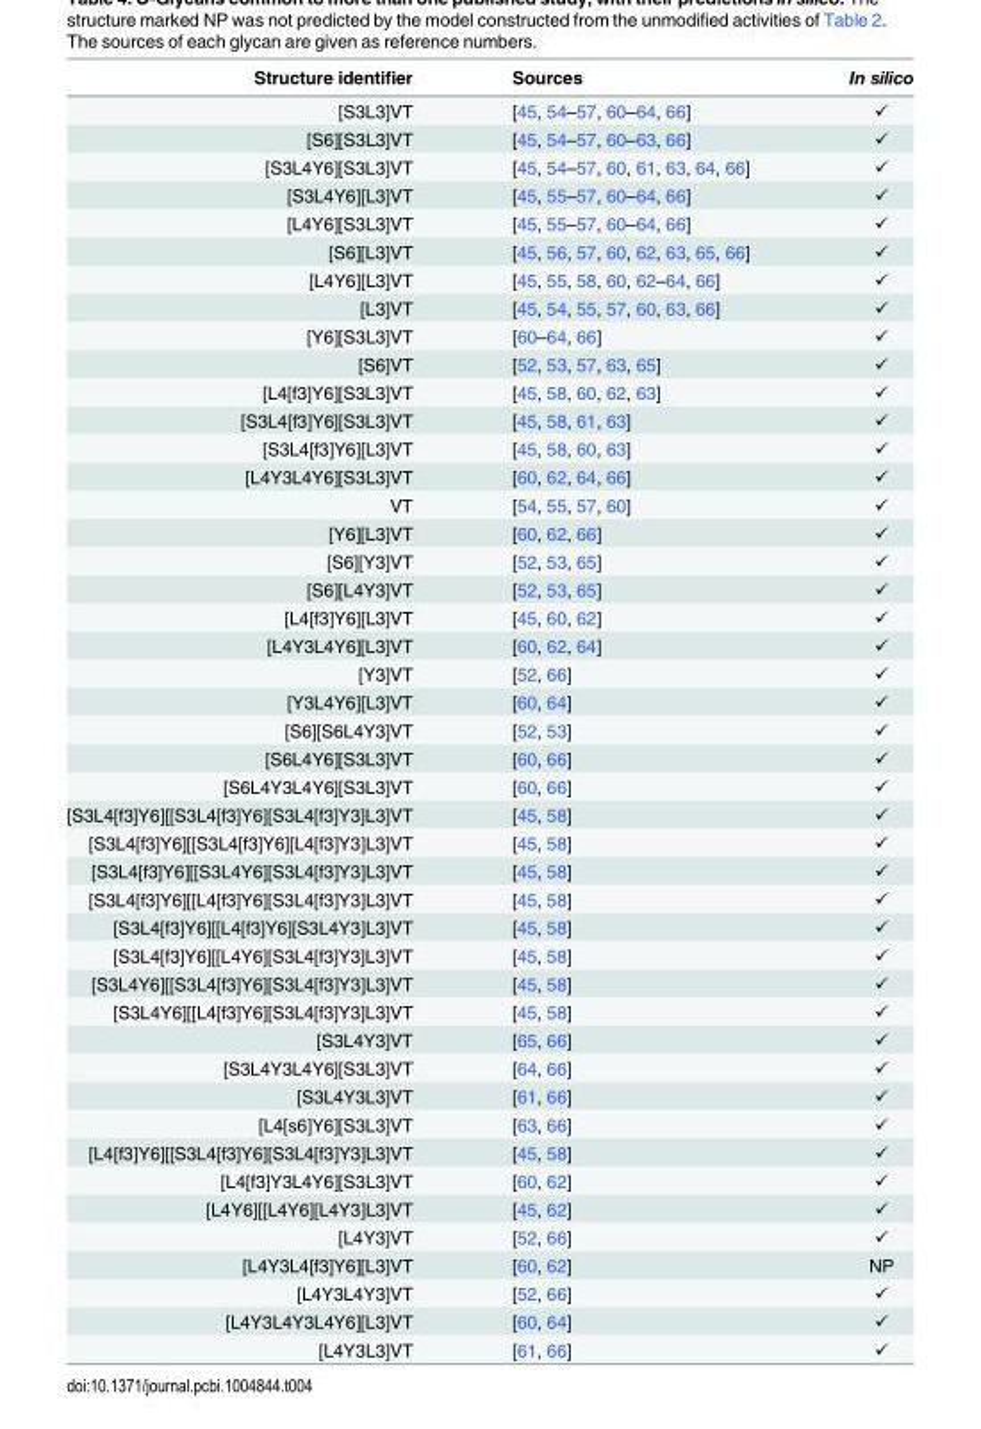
<table><thead><tr><td>Structure identifier</td><td>Sources</td><td>In silico</td></tr></thead><tbody><tr><td>[S3L3]VT</td><td>[45, 54–57, 60–64, 66]</td><td>✓</td></tr><tr><td>[S6][S3L3]VT</td><td>[45, 54–57, 60–63, 66]</td><td>✓</td></tr><tr><td>[S3L4Y6][S3L3]VT</td><td>[45, 54–57, 60, 61, 63, 64, 66]</td><td>✓</td></tr><tr><td>[S3L4Y6][L3]VT</td><td>[45, 55–57, 60–64, 66]</td><td>✓</td></tr><tr><td>[L4Y6][S3L3]VT</td><td>[45, 55–57, 60–64, 66]</td><td>✓</td></tr><tr><td>[S6][L3]VT</td><td>[45, 56, 57, 60, 62, 63, 65, 66]</td><td>✓</td></tr><tr><td>[L4Y6][L3]VT</td><td>[45, 55, 58, 60, 62–64, 66]</td><td>✓</td></tr><tr><td>[L3]VT</td><td>[45, 54, 55, 57, 60, 63, 66]</td><td>✓</td></tr><tr><td>[Y6][S3L3]VT</td><td>[60–64, 66]</td><td>✓</td></tr><tr><td>[S6]VT</td><td>[52, 53, 57, 63, 65]</td><td>✓</td></tr><tr><td>[L4[f3]Y6][S3L3]VT</td><td>[45, 58, 60, 62, 63]</td><td>✓</td></tr><tr><td>[S3L4[f3]Y6][S3L3]VT</td><td>[45, 58, 61, 63]</td><td>✓</td></tr><tr><td>[S3L4[f3]Y6][L3]VT</td><td>[45, 58, 60, 63]</td><td>✓</td></tr><tr><td>[L4Y3L4Y6][S3L3]VT</td><td>[60, 62, 64, 66]</td><td>✓</td></tr><tr><td>VT</td><td>[54, 55, 57, 60]</td><td>✓</td></tr><tr><td>[Y6][L3]VT</td><td>[60, 62, 66]</td><td>✓</td></tr><tr><td>[S6][Y3]VT</td><td>[52, 53, 65]</td><td>✓</td></tr><tr><td>[S6][L4Y3]VT</td><td>[52, 53, 65]</td><td>✓</td></tr><tr><td>[L4[f3]Y6][L3]VT</td><td>[45, 60, 62]</td><td>✓</td></tr><tr><td>[L4Y3L4Y6][L3]VT</td><td>[60, 62, 64]</td><td>✓</td></tr><tr><td>[Y3]VT</td><td>[52, 66]</td><td>✓</td></tr><tr><td>[Y3L4Y6][L3]VT</td><td>[60, 64]</td><td>✓</td></tr><tr><td>[S6][S6L4Y3]VT</td><td>[52, 53]</td><td>✓</td></tr><tr><td>[S6L4Y6][S3L3]VT</td><td>[60, 66]</td><td>✓</td></tr><tr><td>[S6L4Y3L4Y6][S3L3]VT</td><td>[60, 66]</td><td>✓</td></tr><tr><td>[S3L4[f3]Y6][[S3L4[f3]Y6][S3L4[f3]Y3]L3]VT</td><td>[45, 58]</td><td>✓</td></tr><tr><td>[S3L4[f3]Y6][[S3L4[f3]Y6][L4[f3]Y3]L3]VT</td><td>[45, 58]</td><td>✓</td></tr><tr><td>[S3L4[f3]Y6][[S3L4Y6][S3L4[f3]Y3]L3]VT</td><td>[45, 58]</td><td>✓</td></tr><tr><td>[S3L4[f3]Y6][[L4[f3]Y6][S3L4[f3]Y3]L3]VT</td><td>[45, 58]</td><td>✓</td></tr><tr><td>[S3L4[f3]Y6][[L4[f3]Y6][S3L4Y3]L3]VT</td><td>[45, 58]</td><td>✓</td></tr><tr><td>[S3L4[f3]Y6][[L4Y6][S3L4[f3]Y3]L3]VT</td><td>[45, 58]</td><td>✓</td></tr><tr><td>[S3L4Y6][[S3L4[f3]Y6][S3L4[f3]Y3]L3]VT</td><td>[45, 58]</td><td>✓</td></tr><tr><td>[S3L4Y6][[L4[f3]Y6][S3L4[f3]Y3]L3]VT</td><td>[45, 58]</td><td>✓</td></tr><tr><td>[S3L4Y3]VT</td><td>[65, 66]</td><td>✓</td></tr><tr><td>[S3L4Y3L4Y6][S3L3]VT</td><td>[64, 66]</td><td>✓</td></tr><tr><td>[S3L4Y3L3]VT</td><td>[61, 66]</td><td>✓</td></tr><tr><td>[L4[s6]Y6][S3L3]VT</td><td>[63, 66]</td><td>✓</td></tr><tr><td>[L4[f3]Y6][[S3L4[f3]Y6][S3L4[f3]Y3]L3]VT</td><td>[45, 58]</td><td>✓</td></tr><tr><td>[L4[f3]Y3L4Y6][S3L3]VT</td><td>[60, 62]</td><td>✓</td></tr><tr><td>[L4Y6][[L4Y6][L4Y3]L3]VT</td><td>[45, 62]</td><td>✓</td></tr><tr><td>[L4Y3]VT</td><td>[52, 66]</td><td>✓</td></tr><tr><td>[L4Y3L4[f3]Y6][L3]VT</td><td>[60, 62]</td><td>NP</td></tr><tr><td>[L4Y3L4Y3]VT</td><td>[52, 66]</td><td>✓</td></tr><tr><td>[L4Y3L4Y3L4Y6][L3]VT</td><td>[60, 64]</td><td>✓</td></tr><tr><td>[L4Y3L3]VT</td><td>[61, 66]</td><td>✓</td></tr></tbody></table>